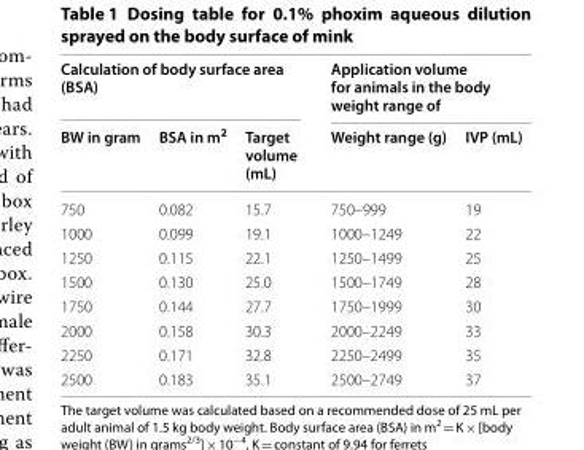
<table><thead><tr><td colspan="3">Calculation of body surface area (BSA)</td><td colspan="2">Application volume for animals in the body weight range of</td></tr><tr><td>BW in gram</td><td>BSA in m<sup>2</sup></td><td>Target volume (mL)</td><td>Weight range (g)</td><td>IVP (mL)</td></tr></thead><tbody><tr><td>750</td><td>0.082</td><td>15.7</td><td>750–999</td><td>19</td></tr><tr><td>1000</td><td>0.099</td><td>19.1</td><td>1000–1249</td><td>22</td></tr><tr><td>1250</td><td>0.115</td><td>22.1</td><td>1250–1499</td><td>25</td></tr><tr><td>1500</td><td>0.130</td><td>25.0</td><td>1500–1749</td><td>28</td></tr><tr><td>1750</td><td>0.144</td><td>27.7</td><td>1750–1999</td><td>30</td></tr><tr><td>2000</td><td>0.158</td><td>30.3</td><td>2000–2249</td><td>33</td></tr><tr><td>2250</td><td>0.171</td><td>32.8</td><td>2250–2499</td><td>35</td></tr><tr><td>2500</td><td>0.183</td><td>35.1</td><td>2500–2749</td><td>37</td></tr></tbody></table>